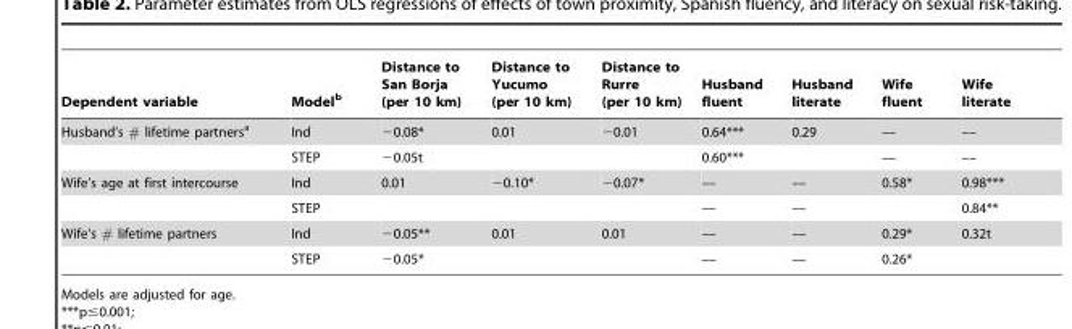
<table><thead><tr><td>Dependent variable</td><td>Model<sup>b</sup></td><td>Distance to San Borja (per 10 km)</td><td>Distance to Yucumo (per 10 km)</td><td>Distance to Rurre (per 10 km)</td><td>Husband fluent</td><td>Husband literate</td><td>Wife fluent</td><td>Wife literate</td></tr></thead><tbody><tr><td rowspan="2">Husband’s # lifetime partners<sup>a</sup></td><td>Ind</td><td>−0.08*</td><td>0.01</td><td>−0.01</td><td>0.64***</td><td>0.29</td><td>––</td><td>––</td></tr><tr><td>STEP</td><td>−0.05t</td><td></td><td></td><td>0.60***</td><td></td><td>––</td><td>––</td></tr><tr><td rowspan="2">Wife’s age at first intercourse</td><td>Ind</td><td>0.01</td><td>−0.10*</td><td>−0.07*</td><td>––</td><td>––</td><td>0.58*</td><td>0.98***</td></tr><tr><td>STEP</td><td></td><td></td><td></td><td>––</td><td>––</td><td></td><td>0.84**</td></tr><tr><td rowspan="2">Wife’s # lifetime partners</td><td>Ind</td><td>−0.05**</td><td>0.01</td><td>0.01</td><td>––</td><td>––</td><td>0.29*</td><td>0.32t</td></tr><tr><td>STEP</td><td>−0.05*</td><td></td><td></td><td>––</td><td>––</td><td>0.26*</td><td></td></tr></tbody></table>